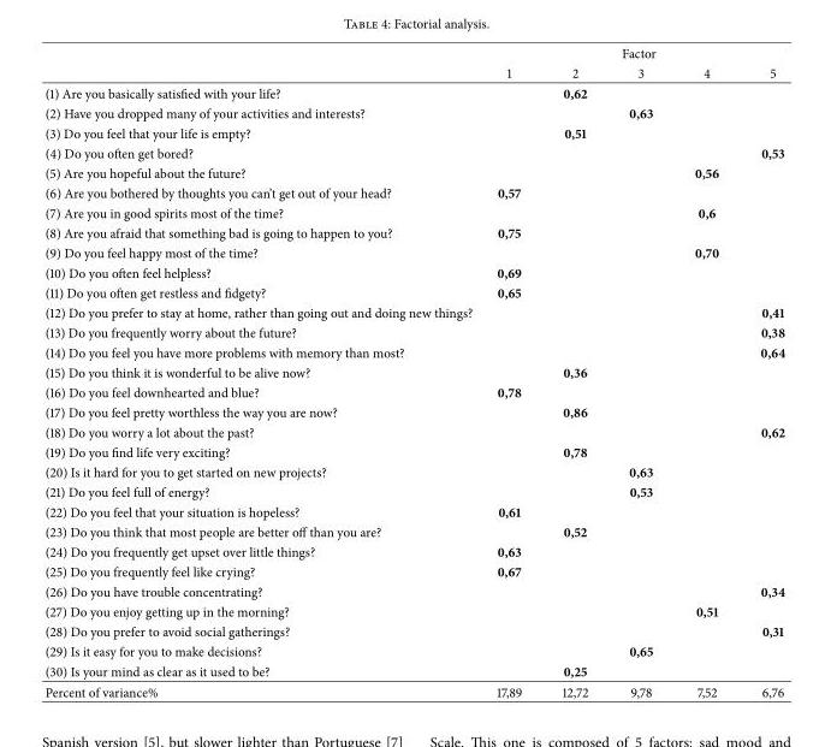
<table><thead><tr><td rowspan="2"></td><td colspan="5">Factor</td></tr><tr><td>1</td><td>2</td><td>3</td><td>4</td><td>5</td></tr></thead><tbody><tr><td>(1) Are you basically satisfied with your life?</td><td></td><td>0,62</td><td></td><td></td><td></td></tr><tr><td>(2) Have you dropped many of your activities and interests?</td><td></td><td></td><td>0,63</td><td></td><td></td></tr><tr><td>(3) Do you feel that your life is empty?</td><td></td><td>0,51</td><td></td><td></td><td></td></tr><tr><td>(4) Do you often get bored?</td><td></td><td></td><td></td><td></td><td>0,53</td></tr><tr><td>(5) Are you hopeful about the future?</td><td></td><td></td><td></td><td>0,56</td><td></td></tr><tr><td>(6) Are you bothered by thoughts you can’t get out of your head?</td><td>0,57</td><td></td><td></td><td></td><td></td></tr><tr><td>(7) Are you in good spirits most of the time?</td><td></td><td></td><td></td><td>0,6</td><td></td></tr><tr><td>(8) Are you afraid that something bad is going to happen to you?</td><td>0,75</td><td></td><td></td><td></td><td></td></tr><tr><td>(9) Do you feel happy most of the time?</td><td></td><td></td><td></td><td>0,70</td><td></td></tr><tr><td>(10) Do you often feel helpless?</td><td>0,69</td><td></td><td></td><td></td><td></td></tr><tr><td>(11) Do you often get restless and fidgety?</td><td>0,65</td><td></td><td></td><td></td><td></td></tr><tr><td>(12) Do you prefer to stay at home, rather than going out and doing new things?</td><td></td><td></td><td></td><td></td><td>0,41</td></tr><tr><td>(13) Do you frequently worry about the future?</td><td></td><td></td><td></td><td></td><td>0,38</td></tr><tr><td>(14) Do you feel you have more problems with memory than most?</td><td></td><td></td><td></td><td></td><td>0,64</td></tr><tr><td>(15) Do you think it is wonderful to be alive now?</td><td></td><td>0,36</td><td></td><td></td><td></td></tr><tr><td>(16) Do you feel downhearted and blue?</td><td>0,78</td><td></td><td></td><td></td><td></td></tr><tr><td>(17) Do you feel pretty worthless the way you are now?</td><td></td><td>0,86</td><td></td><td></td><td></td></tr><tr><td>(18) Do you worry a lot about the past?</td><td></td><td></td><td></td><td></td><td>0,62</td></tr><tr><td>(19) Do you find life very exciting?</td><td></td><td>0,78</td><td></td><td></td><td></td></tr><tr><td>(20) Is it hard for you to get started on new projects?</td><td></td><td></td><td>0,63</td><td></td><td></td></tr><tr><td>(21) Do you feel full of energy?</td><td></td><td></td><td>0,53</td><td></td><td></td></tr><tr><td>(22) Do you feel that your situation is hopeless?</td><td>0,61</td><td></td><td></td><td></td><td></td></tr><tr><td>(23) Do you think that most people are better off than you are?</td><td></td><td>0,52</td><td></td><td></td><td></td></tr><tr><td>(24) Do you frequently get upset over little things?</td><td>0,63</td><td></td><td></td><td></td><td></td></tr><tr><td>(25) Do you frequently feel like crying?</td><td>0,67</td><td></td><td></td><td></td><td></td></tr><tr><td>(26) Do you have trouble concentrating?</td><td></td><td></td><td></td><td></td><td>0,34</td></tr><tr><td>(27) Do you enjoy getting up in the morning?</td><td></td><td></td><td></td><td>0,51</td><td></td></tr><tr><td>(28) Do you prefer to avoid social gatherings?</td><td></td><td></td><td></td><td></td><td>0,31</td></tr><tr><td>(29) Is it easy for you to make decisions?</td><td></td><td></td><td>0,65</td><td></td><td></td></tr><tr><td>(30) Is your mind as clear as it used to be?</td><td></td><td>0,25</td><td></td><td></td><td></td></tr><tr><td>Percent of variance%</td><td>17,89</td><td>12,72</td><td>9,78</td><td>7,52</td><td>6,76</td></tr></tbody></table>